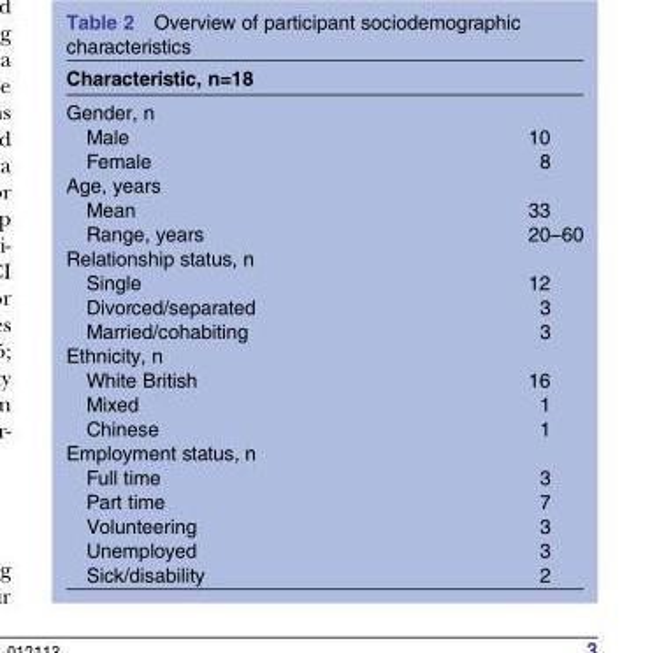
<table><thead><tr><td rowspan="2" colspan="2">Characteristic, n=18 Gender, n</td></tr><tr></tr><tr><td>Male</td><td>10</td></tr></thead><tbody><tr><td>Female</td><td>8</td></tr><tr><td colspan="2">Age, years</td></tr><tr><td>Mean</td><td>33</td></tr><tr><td>Range, years</td><td>20–60</td></tr><tr><td colspan="2">Relationship status, n</td></tr><tr><td>Single</td><td>12</td></tr><tr><td>Divorced/separated</td><td>3</td></tr><tr><td>Married/cohabiting</td><td>3</td></tr><tr><td colspan="2">Ethnicity, n</td></tr><tr><td>White British</td><td>16</td></tr><tr><td>Mixed</td><td>1</td></tr><tr><td>Chinese</td><td>1</td></tr><tr><td colspan="2">Employment status, n</td></tr><tr><td>Full time</td><td>3</td></tr><tr><td>Part time</td><td>7</td></tr><tr><td>Volunteering</td><td>3</td></tr><tr><td>Unemployed</td><td>3</td></tr><tr><td>Sick/disability</td><td>2</td></tr></tbody></table>